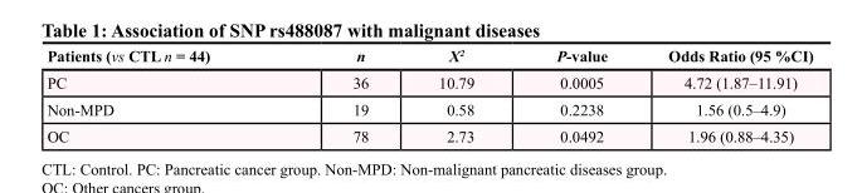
<table><thead><tr><td>Patients (vs CTL n = 44)</td><td>n</td><td>X<sup>2</sup></td><td>P-value</td><td>Odds Ratio (95 %CI)</td></tr></thead><tbody><tr><td>PC</td><td>36</td><td>10.79</td><td>0.0005</td><td>4.72 (1.87–11.91)</td></tr><tr><td>Non-MPD</td><td>19</td><td>0.58</td><td>0.2238</td><td>1.56 (0.5–4.9)</td></tr><tr><td>OC</td><td>78</td><td>2.73</td><td>0.0492</td><td>1.96 (0.88–4.35)</td></tr></tbody></table>